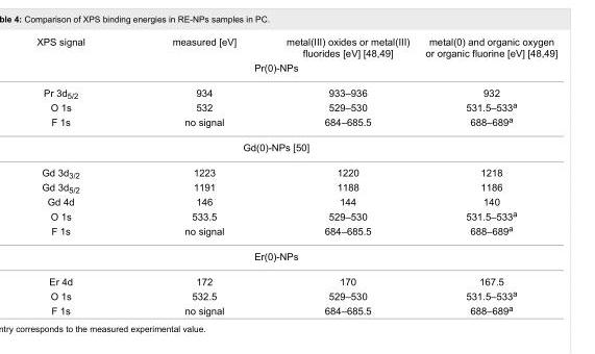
<table><tbody><tr><td>XPS signal</td><td>measured [eV]</td><td>metal(III) oxides or metal(III) fluorides [eV] [48–49]</td><td>metal(0) and organic oxygen or organic fluorine [eV] [48–49]</td></tr><tr><td colspan="4">Pr(0)-NPs</td></tr><tr><td>Pr 3d<sub>5/2</sub></td><td>934</td><td>933–936</td><td>932</td></tr><tr><td>O 1s</td><td>532</td><td>529–530</td><td>531.5–533<sup>a</sup></td></tr><tr><td>F 1s</td><td>no signal</td><td>684–685.5</td><td>688–689<sup>a</sup></td></tr><tr><td colspan="4">Gd(0)-NPs [50]</td></tr><tr><td>Gd 3d<sub>3/2</sub></td><td>1223</td><td>1220</td><td>1218</td></tr><tr><td>Gd 3d<sub>5/2</sub></td><td>1191</td><td>1188</td><td>1186</td></tr><tr><td>Gd 4d</td><td>146</td><td>144</td><td>140</td></tr><tr><td>O 1s</td><td>533.5</td><td>529–530</td><td>531.5–533<sup>a</sup></td></tr><tr><td>F 1s</td><td>no signal</td><td>684–685.5</td><td>688–689<sup>a</sup></td></tr><tr><td colspan="4">Er(0)-NPs</td></tr><tr><td>Er 4d</td><td>172</td><td>170</td><td>167.5</td></tr><tr><td>O 1s</td><td>532.5</td><td>529–530</td><td>531.5–533<sup>a</sup></td></tr><tr><td>F 1s</td><td>no signal</td><td>684–685.5</td><td>688–689<sup>a</sup></td></tr></tbody></table>